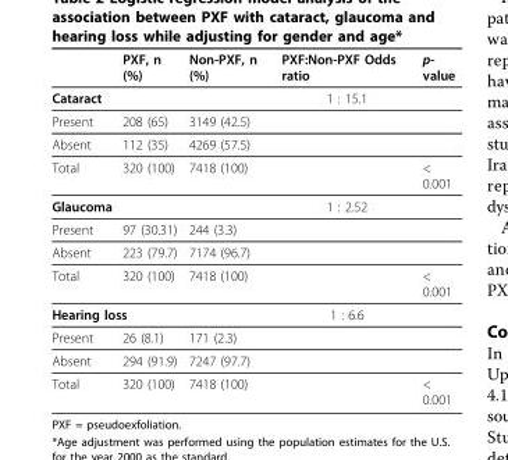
<table><thead><tr><td></td><td>PXF, n (%)</td><td>Non-PXF, n (%)</td><td>PXF:Non-PXF Odds ratio</td><td>p- value</td></tr></thead><tbody><tr><td>Cataract</td><td></td><td></td><td>1 : 15.1</td><td></td></tr><tr><td>Present</td><td>208 (65)</td><td>3149 (42.5)</td><td></td><td></td></tr><tr><td>Absent</td><td>112 (35)</td><td>4269 (57.5)</td><td></td><td></td></tr><tr><td>Total</td><td>320 (100)</td><td>7418 (100)</td><td></td><td>&lt; 0.001</td></tr><tr><td>Glaucoma</td><td></td><td></td><td>1 : 2.52</td><td></td></tr><tr><td>Present</td><td>97 (30.31)</td><td>244 (3.3)</td><td></td><td></td></tr><tr><td>Absent</td><td>223 (79.7)</td><td>7174 (96.7)</td><td></td><td></td></tr><tr><td>Total</td><td>320 (100)</td><td>7418 (100)</td><td></td><td>&lt; 0.001</td></tr><tr><td colspan="2">Hearing loss</td><td></td><td>1 : 6.6</td><td></td></tr><tr><td>Present</td><td>26 (8.1)</td><td>171 (2.3)</td><td></td><td></td></tr><tr><td>Absent</td><td>294 (91.9)</td><td>7247 (97.7)</td><td></td><td></td></tr><tr><td>Total</td><td>320 (100)</td><td>7418 (100)</td><td></td><td>&lt; 0.001</td></tr></tbody></table>